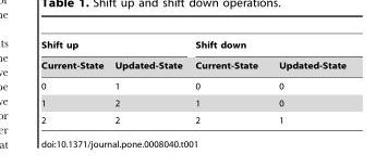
<table><thead><tr><td colspan="2">Shift up</td><td colspan="2">Shift down</td></tr><tr><td>Current-State</td><td>Updated-State</td><td>Current-State</td><td>Updated-State</td></tr></thead><tbody><tr><td>0</td><td>1</td><td>0</td><td>0</td></tr><tr><td>1</td><td>2</td><td>1</td><td>0</td></tr><tr><td>2</td><td>2</td><td>2</td><td>1</td></tr></tbody></table>